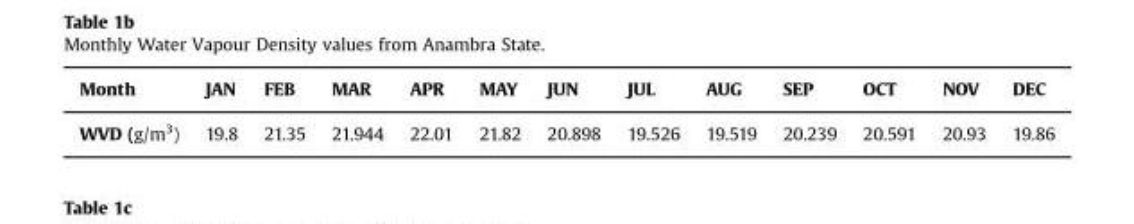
<table><thead><tr><td>Month</td><td>JAN</td><td>FEB</td><td>MAR</td><td>APR</td><td>MAY</td><td>JUN</td><td>JUL</td><td>AUG</td><td>SEP</td><td>OCT</td><td>NOV</td><td>DEC</td></tr></thead><tbody><tr><td>WVD (g/m<sup>3</sup>)</td><td>19.8</td><td>21.35</td><td>21.944</td><td>22.01</td><td>21.82</td><td>20.898</td><td>19.526</td><td>19.519</td><td>20.239</td><td>20.591</td><td>20.93</td><td>19.86</td></tr></tbody></table>